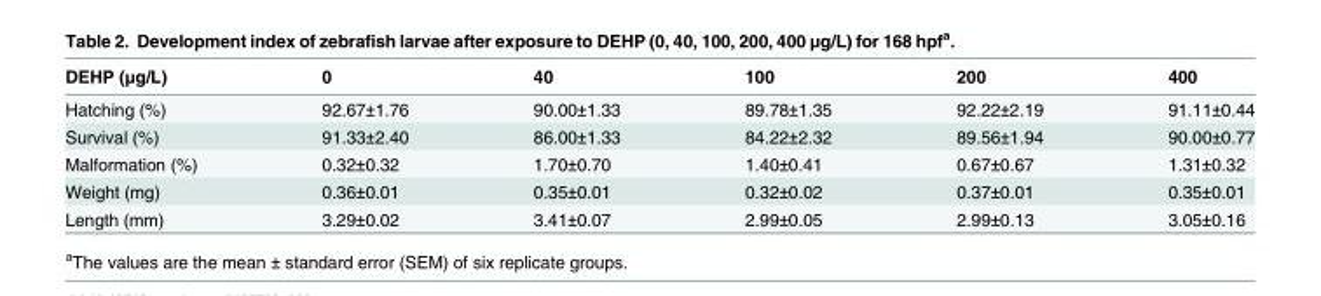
<table><thead><tr><td>DEHP (μg/L)</td><td>0</td><td>40</td><td>100</td><td>200</td><td>400</td></tr></thead><tbody><tr><td>Hatching (%)</td><td>92.67±1.76</td><td>90.00±1.33</td><td>89.78±1.35</td><td>92.22±2.19</td><td>91.11±0.44</td></tr><tr><td>Survival (%)</td><td>91.33±2.40</td><td>86.00±1.33</td><td>84.22±2.32</td><td>89.56±1.94</td><td>90.00±0.77</td></tr><tr><td>Malformation (%)</td><td>0.32±0.32</td><td>1.70±0.70</td><td>1.40±0.41</td><td>0.67±0.67</td><td>1.31±0.32</td></tr><tr><td>Weight (mg)</td><td>0.36±0.01</td><td>0.35±0.01</td><td>0.32±0.02</td><td>0.37±0.01</td><td>0.35±0.01</td></tr><tr><td>Length (mm)</td><td>3.29±0.02</td><td>3.41±0.07</td><td>2.99±0.05</td><td>2.99±0.13</td><td>3.05±0.16</td></tr></tbody></table>